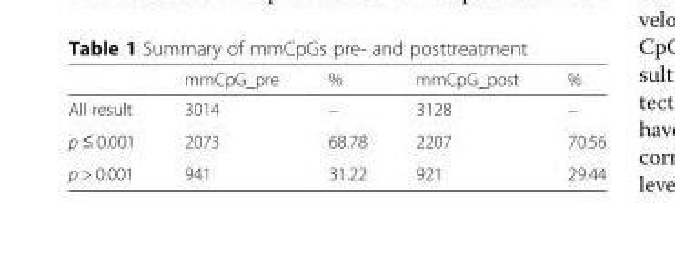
<table><thead><tr><td></td><td>mmCpG_pre</td><td>%</td><td>mmCpG_post</td><td>%</td></tr></thead><tbody><tr><td>All result</td><td>3014</td><td>–</td><td>3128</td><td>–</td></tr><tr><td>p ≤ 0.001</td><td>2073</td><td>68.78</td><td>2207</td><td>70.56</td></tr><tr><td>p &gt; 0.001</td><td>941</td><td>31.22</td><td>921</td><td>29.44</td></tr></tbody></table>